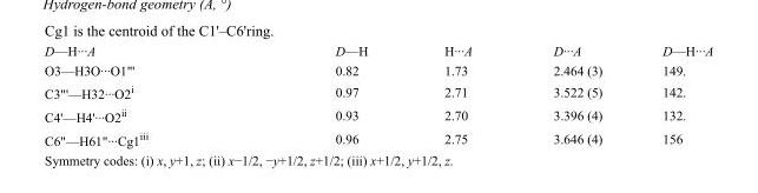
<table><tbody><tr><td>D—H···A</td><td>D—H</td><td>H···A</td><td>D···A</td><td>D—H···A</td></tr><tr><td>O3—H3O···O1&quot;&#x27;</td><td>0.82</td><td>1.73</td><td>2.464 (3)</td><td>149.</td></tr><tr><td>C3&quot;&#x27;—H32···O2<sup>i</sup></td><td>0.97</td><td>2.71</td><td>3.522 (5)</td><td>142.</td></tr><tr><td>C4&#x27;—H4&#x27;···O2<sup>ii</sup></td><td>0.93</td><td>2.70</td><td>3.396 (4)</td><td>132.</td></tr><tr><td>C6&quot;—H61&quot;···Cg1<sup>iii</sup></td><td>0.96</td><td>2.75</td><td>3.646 (4)</td><td>156</td></tr></tbody></table>